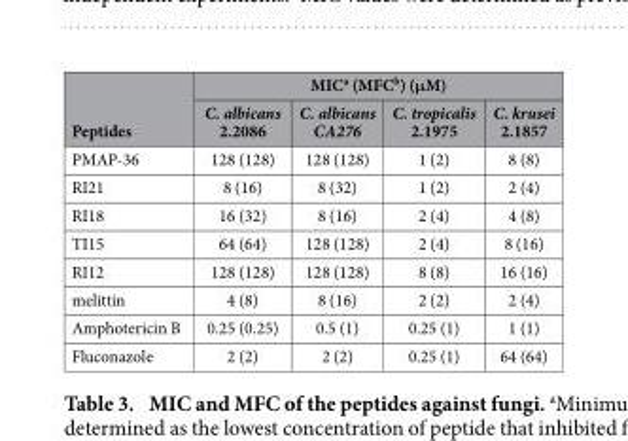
<table><thead><tr><td rowspan="2">Peptides</td><td colspan="4">MIC<sup>a</sup> (MFC<sup>b</sup>) (μM)</td></tr><tr><td>C. albicans 2.2086</td><td>C. albicans CA276</td><td>C. tropicalis 2.1975</td><td>C. krusei 2.1857</td></tr></thead><tbody><tr><td>PMAP-36</td><td>128 (128)</td><td>128 (128)</td><td>1 (2)</td><td>8 (8)</td></tr><tr><td>RI21</td><td>8 (16)</td><td>8 (32)</td><td>1 (2)</td><td>2 (4)</td></tr><tr><td>RI18</td><td>16 (32)</td><td>8 (16)</td><td>2 (4)</td><td>4 (8)</td></tr><tr><td>TI15</td><td>64 (64)</td><td>128 (128)</td><td>2 (4)</td><td>8 (16)</td></tr><tr><td>RI12</td><td>128 (128)</td><td>128 (128)</td><td>8 (8)</td><td>16 (16)</td></tr><tr><td>melittin</td><td>4 (8)</td><td>8 (16)</td><td>2 (2)</td><td>2 (4)</td></tr><tr><td>Amphotericin B</td><td>0.25 (0.25)</td><td>0.5 (1)</td><td>0.25 (1)</td><td>1 (1)</td></tr><tr><td>Fluconazole</td><td>2 (2)</td><td>2 (2)</td><td>0.25 (1)</td><td>64 (64)</td></tr></tbody></table>